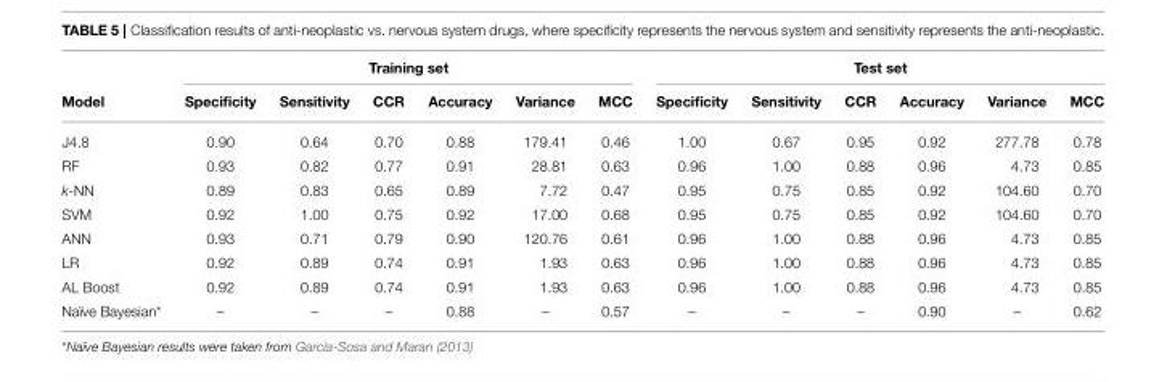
<table><thead><tr><td rowspan="2">Model</td><td colspan="6">Training set</td><td colspan="6">Test set</td></tr><tr><td>Specificity</td><td>Sensitivity</td><td>CCR</td><td>Accuracy</td><td>Variance</td><td>MCC</td><td>Specificity</td><td>Sensitivity</td><td>CCR</td><td>Accuracy</td><td>Variance</td><td>MCC</td></tr></thead><tbody><tr><td>J4.8</td><td>0.90</td><td>0.64</td><td>0.70</td><td>0.88</td><td>179.41</td><td>0.46</td><td>1.00</td><td>0.67</td><td>0.95</td><td>0.92</td><td>277.78</td><td>0.78</td></tr><tr><td>RF</td><td>0.93</td><td>0.82</td><td>0.77</td><td>0.91</td><td>28.81</td><td>0.63</td><td>0.96</td><td>1.00</td><td>0.88</td><td>0.96</td><td>4.73</td><td>0.85</td></tr><tr><td>k-NN</td><td>0.89</td><td>0.83</td><td>0.65</td><td>0.89</td><td>7.72</td><td>0.47</td><td>0.95</td><td>0.75</td><td>0.85</td><td>0.92</td><td>104.60</td><td>0.70</td></tr><tr><td>SVM</td><td>0.92</td><td>1.00</td><td>0.75</td><td>0.92</td><td>17.00</td><td>0.68</td><td>0.95</td><td>0.75</td><td>0.85</td><td>0.92</td><td>104.60</td><td>0.70</td></tr><tr><td>ANN</td><td>0.93</td><td>0.71</td><td>0.79</td><td>0.90</td><td>120.76</td><td>0.61</td><td>0.96</td><td>1.00</td><td>0.88</td><td>0.96</td><td>4.73</td><td>0.85</td></tr><tr><td>LR</td><td>0.92</td><td>0.89</td><td>0.74</td><td>0.91</td><td>1.93</td><td>0.63</td><td>0.96</td><td>1.00</td><td>0.88</td><td>0.96</td><td>4.73</td><td>0.85</td></tr><tr><td>AL Boost</td><td>0.92</td><td>0.89</td><td>0.74</td><td>0.91</td><td>1.93</td><td>0.63</td><td>0.96</td><td>1.00</td><td>0.88</td><td>0.96</td><td>4.73</td><td>0.85</td></tr><tr><td>Naïve Bayesian*</td><td>–</td><td>–</td><td>–</td><td>0.88</td><td>–</td><td>0.57</td><td>–</td><td>–</td><td>–</td><td>0.90</td><td>–</td><td>0.62</td></tr></tbody></table>